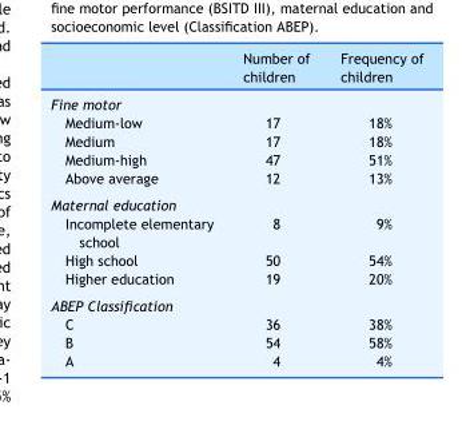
<table><thead><tr><td></td><td>Number of children</td><td>Frequency of children</td></tr></thead><tbody><tr><td colspan="3">Fine motor</td></tr><tr><td>Medium-low</td><td>17</td><td>18%</td></tr><tr><td>Medium</td><td>17</td><td>18%</td></tr><tr><td>Medium-high</td><td>47</td><td>51%</td></tr><tr><td>Above average</td><td>12</td><td>13%</td></tr><tr><td colspan="3">Maternal education</td></tr><tr><td>Incomplete elementary school</td><td>8</td><td>9%</td></tr><tr><td>High school</td><td>50</td><td>54%</td></tr><tr><td>Higher education</td><td>19</td><td>20%</td></tr><tr><td colspan="3">ABEP Classification</td></tr><tr><td>C</td><td>36</td><td>38%</td></tr><tr><td>B</td><td>54</td><td>58%</td></tr><tr><td>A</td><td>4</td><td>4%</td></tr></tbody></table>